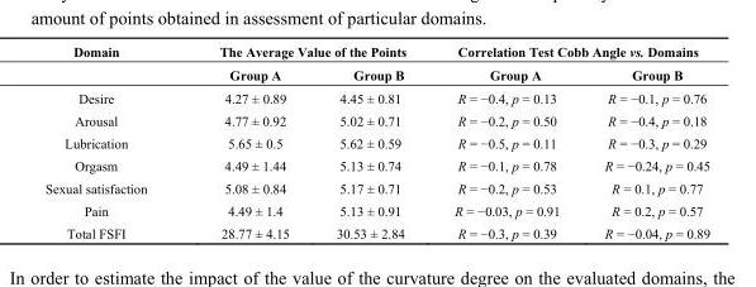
<table><thead><tr><td rowspan="2">Domain</td><td colspan="2">The Average Value of the Points</td><td colspan="2">Correlation Test Cobb Angle vs. Domains</td></tr><tr><td>Group A</td><td>Group B</td><td>Group A</td><td>Group B</td></tr></thead><tbody><tr><td>Desire</td><td>4.27 ± 0.89</td><td>4.45 ± 0.81</td><td>R = −0.4, p = 0.13</td><td>R = −0.1, p = 0.76</td></tr><tr><td>Arousal</td><td>4.77 ± 0.92</td><td>5.02 ± 0.71</td><td>R = −0.2, p = 0.50</td><td>R = −0.4, p = 0.18</td></tr><tr><td>Lubrication</td><td>5.65 ± 0.5</td><td>5.62 ± 0.59</td><td>R = −0.5, p = 0.11</td><td>R = −0.3, p = 0.29</td></tr><tr><td>Orgasm</td><td>4.49 ± 1.44</td><td>5.13 ± 0.74</td><td>R = −0.1, p = 0.78</td><td>R = −0.24, p = 0.45</td></tr><tr><td>Sexual satisfaction</td><td>5.08 ± 0.84</td><td>5.17 ± 0.71</td><td>R = −0.2, p = 0.53</td><td>R = 0.1, p = 0.77</td></tr><tr><td>Pain</td><td>4.49 ± 1.4</td><td>5.13 ± 0.91</td><td>R = −0.03, p = 0.91</td><td>R = 0.2, p = 0.57</td></tr><tr><td>Total FSFI</td><td>28.77 ± 4.15</td><td>30.53 ± 2.84</td><td>R = −0.3, p = 0.39</td><td>R = −0.04, p = 0.89</td></tr></tbody></table>